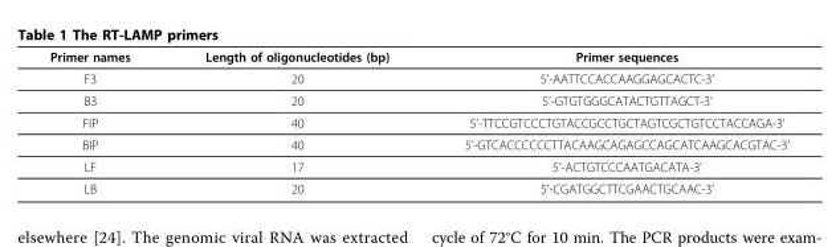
<table><thead><tr><td>Primer names</td><td>Length of oligonucleotides (bp)</td><td>Primer sequences</td></tr></thead><tbody><tr><td>F3</td><td>20</td><td>5’-AATTCCACCAAGGAGCACTC-3’</td></tr><tr><td>B3</td><td>20</td><td>5’-GTGTGGGCATACTGTTAGCT-3’</td></tr><tr><td>FIP</td><td>40</td><td>5’-TTCCGTCCCTGTACCGCCTGCTAGTCGCTGTCCTACCAGA-3’</td></tr><tr><td>BIP</td><td>40</td><td>5’-GTCACCCCCCTTACAAGCAGAGCCAGCATCAAGCACGTAC-3’</td></tr><tr><td>LF</td><td>17</td><td>5’-ACTGTCCCAATGACATA-3’</td></tr><tr><td>LB</td><td>20</td><td>5’-CGATGGCTTCGAACTGCAAC-3’</td></tr></tbody></table>